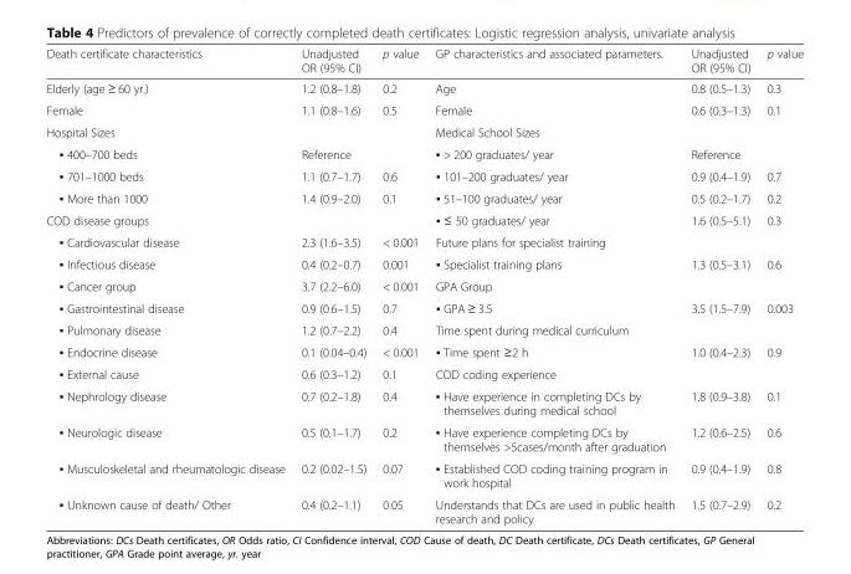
<table><thead><tr><td>Death certificate characteristics</td><td>Unadjusted OR (95% CI)</td><td>p value</td><td>GP characteristics and associated parameters.</td><td>Unadjusted OR (95% CI)</td><td>p value</td></tr></thead><tbody><tr><td>Elderly (age ≥ 60 yr.)</td><td>1.2 (0.8–1.8)</td><td>0.2</td><td>Age</td><td>0.8 (0.5–1.3)</td><td>0.3</td></tr><tr><td>Female</td><td>1.1 (0.8–1.6)</td><td>0.5</td><td>Female</td><td>0.6 (0.3–1.3)</td><td>0.1</td></tr><tr><td>Hospital Sizes</td><td></td><td></td><td>Medical School Sizes</td><td></td><td></td></tr><tr><td>▪ 400–700 beds</td><td>Reference</td><td></td><td>▪ &gt; 200 graduates/ year</td><td>Reference</td><td></td></tr><tr><td>▪ 701–1000 beds</td><td>1.1 (0.7–1.7)</td><td>0.6</td><td>▪ 101–200 graduates/ year</td><td>0.9 (0.4–1.9)</td><td>0.7</td></tr><tr><td>▪ More than 1000</td><td>1.4 (0.9–2.0)</td><td>0.1</td><td>▪ 51–100 graduates/ year</td><td>0.5 (0.2–1.7)</td><td>0.2</td></tr><tr><td>COD disease groups</td><td></td><td></td><td>▪ ≤ 50 graduates/ year</td><td>1.6 (0.5–5.1)</td><td>0.3</td></tr><tr><td>▪ Cardiovascular disease</td><td>2.3 (1.6–3.5)</td><td>&lt; 0.001</td><td>Future plans for specialist training</td><td></td><td></td></tr><tr><td>▪ Infectious disease</td><td>0.4 (0.2–0.7)</td><td>0.001</td><td>▪ Specialist training plans</td><td>1.3 (0.5–3.1)</td><td>0.6</td></tr><tr><td>▪ Cancer group</td><td>3.7 (2.2–6.0)</td><td>&lt; 0.001</td><td>GPA Group</td><td></td><td></td></tr><tr><td>▪ Gastrointestinal disease</td><td>0.9 (0.6–1.5)</td><td>0.7</td><td>▪ GPA ≥ 3.5</td><td>3.5 (1.5–7.9)</td><td>0.003</td></tr><tr><td>▪ Pulmonary disease</td><td>1.2 (0.7–2.2)</td><td>0.4</td><td>Time spent during medical curriculum</td><td></td><td></td></tr><tr><td>▪ Endocrine disease</td><td>0.1 (0.04–0.4)</td><td>&lt; 0.001</td><td>▪ Time spent ≥2 h</td><td>1.0 (0.4–2.3)</td><td>0.9</td></tr><tr><td>▪ External cause</td><td>0.6 (0.3–1.2)</td><td>0.1</td><td>COD coding experience</td><td></td><td></td></tr><tr><td>▪ Nephrology disease</td><td>0.7 (0.2–1.8)</td><td>0.4</td><td>▪ Have experience in completing DCs by themselves during medical school</td><td>1.8 (0.9–3.8)</td><td>0.1</td></tr><tr><td>▪ Neurologic disease</td><td>0.5 (0.1–1.7)</td><td>0.2</td><td>▪ Have experience completing DCs by themselves &gt;5cases/month after graduation</td><td>1.2 (0.6–2.5)</td><td>0.6</td></tr><tr><td>▪ Musculoskeletal and rheumatologic disease</td><td>0.2 (0.02–1.5)</td><td>0.07</td><td>▪ Established COD coding training program in work hospital</td><td>0.9 (0.4–1.9)</td><td>0.8</td></tr><tr><td>▪ Unknown cause of death/ Other</td><td>0.4 (0.2–1.1)</td><td>0.05</td><td>Understands that DCs are used in public health research and policy</td><td>1.5 (0.7–2.9)</td><td>0.2</td></tr></tbody></table>